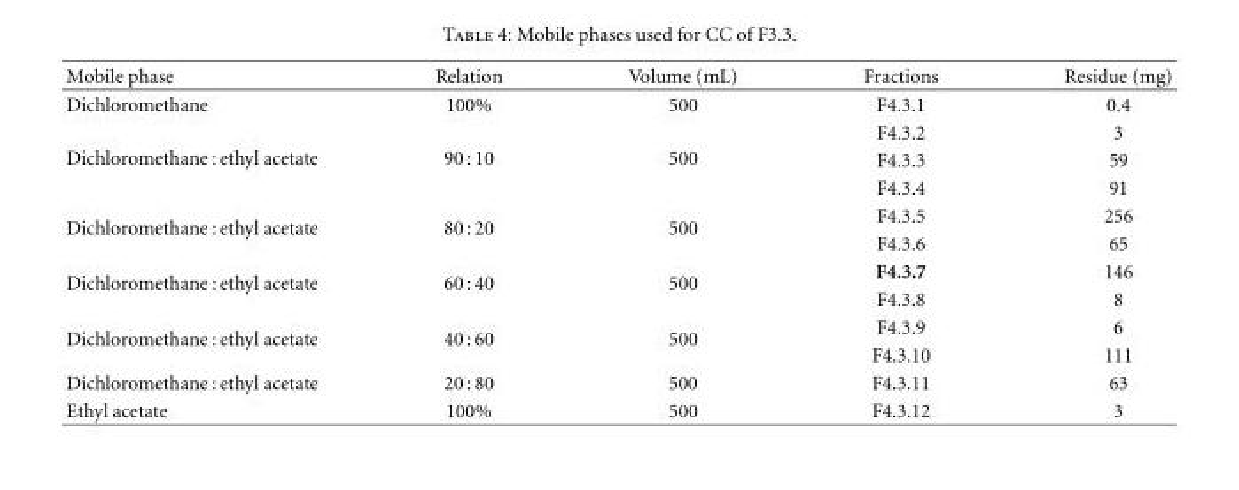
<table><thead><tr><td>Mobile phase</td><td>Relation</td><td>Volume (mL)</td><td>Fractions</td><td>Residue (mg)</td></tr></thead><tbody><tr><td>Dichloromethane</td><td>100%</td><td>500</td><td>F4.3.1</td><td>0.4</td></tr><tr><td rowspan="3">Dichloromethane : ethyl acetate</td><td rowspan="3">90 : 10</td><td rowspan="3">500</td><td>F4.3.2</td><td>3</td></tr><tr><td>F4.3.3</td><td>59</td></tr><tr><td>F4.3.4</td><td>91</td></tr><tr><td rowspan="2">Dichloromethane : ethyl acetate</td><td rowspan="2">80 : 20</td><td rowspan="2">500</td><td>F4.3.5</td><td>256</td></tr><tr><td>F4.3.6</td><td>65</td></tr><tr><td rowspan="2">Dichloromethane : ethyl acetate</td><td rowspan="2">60 : 40</td><td rowspan="2">500</td><td>F4.3.7</td><td>146</td></tr><tr><td>F4.3.8</td><td>8</td></tr><tr><td rowspan="2">Dichloromethane : ethyl acetate</td><td rowspan="2">40 : 60</td><td rowspan="2">500</td><td>F4.3.9</td><td>6</td></tr><tr><td>F4.3.10</td><td>111</td></tr><tr><td>Dichloromethane : ethyl acetate</td><td>20 : 80</td><td>500</td><td>F4.3.11</td><td>63</td></tr><tr><td>Ethyl acetate</td><td>100%</td><td>500</td><td>F4.3.12</td><td>3</td></tr></tbody></table>